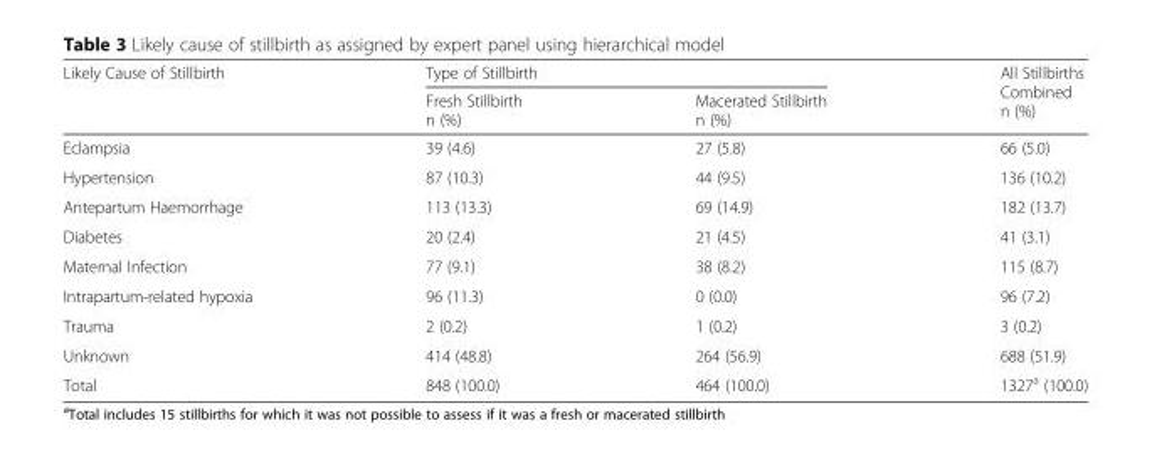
<table><thead><tr><td rowspan="2">Likely Cause of Stillbirth</td><td colspan="2">Type of Stillbirth</td><td rowspan="2">All Stillbirths Combined n (%)</td></tr><tr><td>Fresh Stillbirth n (%)</td><td>Macerated Stillbirth n (%)</td></tr></thead><tbody><tr><td>Eclampsia</td><td>39 (4.6)</td><td>27 (5.8)</td><td>66 (5.0)</td></tr><tr><td>Hypertension</td><td>87 (10.3)</td><td>44 (9.5)</td><td>136 (10.2)</td></tr><tr><td>Antepartum Haemorrhage</td><td>113 (13.3)</td><td>69 (14.9)</td><td>182 (13.7)</td></tr><tr><td>Diabetes</td><td>20 (2.4)</td><td>21 (4.5)</td><td>41 (3.1)</td></tr><tr><td>Maternal Infection</td><td>77 (9.1)</td><td>38 (8.2)</td><td>115 (8.7)</td></tr><tr><td>Intrapartum-related hypoxia</td><td>96 (11.3)</td><td>0 (0.0)</td><td>96 (7.2)</td></tr><tr><td>Trauma</td><td>2 (0.2)</td><td>1 (0.2)</td><td>3 (0.2)</td></tr><tr><td>Unknown</td><td>414 (48.8)</td><td>264 (56.9)</td><td>688 (51.9)</td></tr><tr><td>Total</td><td>848 (100.0)</td><td>464 (100.0)</td><td>1327<sup>a</sup> (100.0)</td></tr></tbody></table>